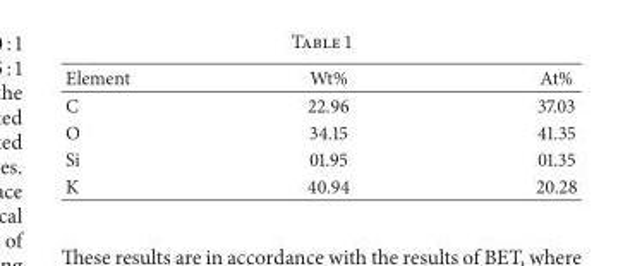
<table><thead><tr><td>Element</td><td>Wt%</td><td>At%</td></tr></thead><tbody><tr><td>C</td><td>22.96</td><td>37.03</td></tr><tr><td>O</td><td>34.15</td><td>41.35</td></tr><tr><td>Si</td><td>01.95</td><td>01.35</td></tr><tr><td>K</td><td>40.94</td><td>20.28</td></tr></tbody></table>